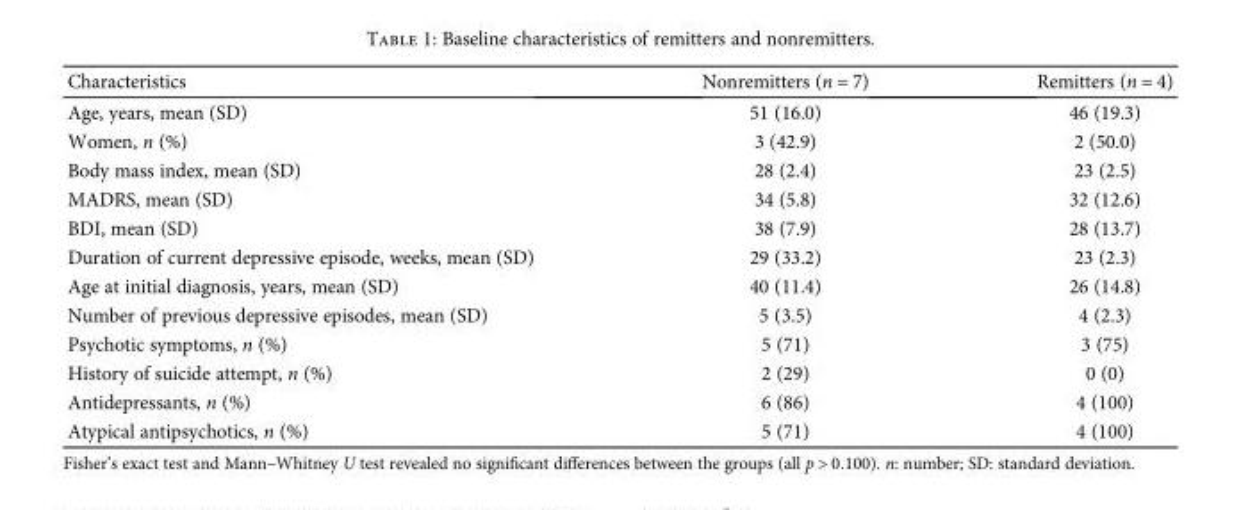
<table><thead><tr><td>Characteristics</td><td>Nonremitters (n = 7)</td><td>Remitters (n = 4)</td></tr></thead><tbody><tr><td>Age, years, mean (SD)</td><td>51 (16.0)</td><td>46 (19.3)</td></tr><tr><td>Women, n (%)</td><td>3 (42.9)</td><td>2 (50.0)</td></tr><tr><td>Body mass index, mean (SD)</td><td>28 (2.4)</td><td>23 (2.5)</td></tr><tr><td>MADRS, mean (SD)</td><td>34 (5.8)</td><td>32 (12.6)</td></tr><tr><td>BDI, mean (SD)</td><td>38 (7.9)</td><td>28 (13.7)</td></tr><tr><td>Duration of current depressive episode, weeks, mean (SD)</td><td>29 (33.2)</td><td>23 (2.3)</td></tr><tr><td>Age at initial diagnosis, years, mean (SD)</td><td>40 (11.4)</td><td>26 (14.8)</td></tr><tr><td>Number of previous depressive episodes, mean (SD)</td><td>5 (3.5)</td><td>4 (2.3)</td></tr><tr><td>Psychotic symptoms, n (%)</td><td>5 (71)</td><td>3 (75)</td></tr><tr><td>History of suicide attempt, n (%)</td><td>2 (29)</td><td>0 (0)</td></tr><tr><td>Antidepressants, n (%)</td><td>6 (86)</td><td>4 (100)</td></tr><tr><td>Atypical antipsychotics, n (%)</td><td>5 (71)</td><td>4 (100)</td></tr></tbody></table>